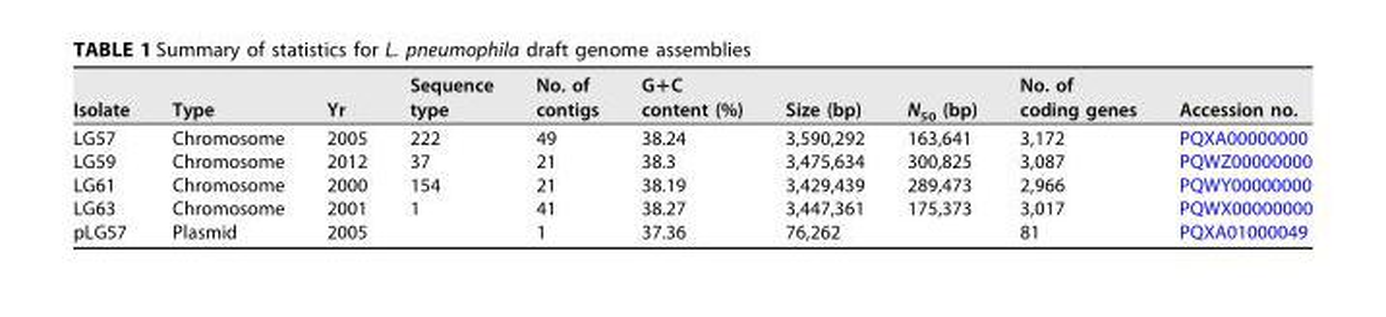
<table><thead><tr><td>Isolate</td><td>Type</td><td>Yr</td><td>Sequence type</td><td>No. of contigs</td><td>G+C content (%)</td><td>Size (bp)</td><td>N<sub>50</sub> (bp)</td><td>No. of coding genes</td><td>Accession no.</td></tr></thead><tbody><tr><td>LG57</td><td>Chromosome</td><td>2005</td><td>222</td><td>49</td><td>38.24</td><td>3,590,292</td><td>163,641</td><td>3,172</td><td>PQXA00000000</td></tr><tr><td>LG59</td><td>Chromosome</td><td>2012</td><td>37</td><td>21</td><td>38.3</td><td>3,475,634</td><td>300,825</td><td>3,087</td><td>PQWZ00000000</td></tr><tr><td>LG61</td><td>Chromosome</td><td>2000</td><td>154</td><td>21</td><td>38.19</td><td>3,429,439</td><td>289,473</td><td>2,966</td><td>PQWY00000000</td></tr><tr><td>LG63</td><td>Chromosome</td><td>2001</td><td>1</td><td>41</td><td>38.27</td><td>3,447,361</td><td>175,373</td><td>3,017</td><td>PQWX00000000</td></tr><tr><td>pLG57</td><td>Plasmid</td><td>2005</td><td></td><td>1</td><td>37.36</td><td>76,262</td><td></td><td>81</td><td>PQXA01000049</td></tr></tbody></table>